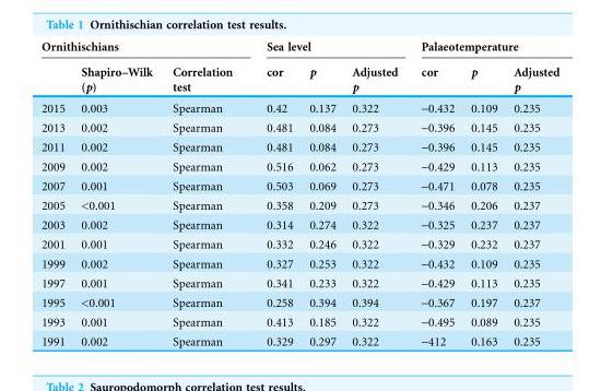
<table><thead><tr><td colspan="3">Ornithischians</td><td colspan="3">Sea level</td><td colspan="3">Palaeotemperature</td></tr><tr><td></td><td>Shapiro–Wilk (p)</td><td>Correlation test</td><td>cor</td><td>p</td><td>Adjusted p</td><td>cor</td><td>p</td><td>Adjusted p</td></tr></thead><tbody><tr><td>2015</td><td>0.003</td><td>Spearman</td><td>0.42</td><td>0.137</td><td>0.322</td><td>-0.432</td><td>0.109</td><td>0.235</td></tr><tr><td>2013</td><td>0.002</td><td>Spearman</td><td>0.481</td><td>0.084</td><td>0.273</td><td>-0.396</td><td>0.145</td><td>0.235</td></tr><tr><td>2011</td><td>0.002</td><td>Spearman</td><td>0.481</td><td>0.084</td><td>0.273</td><td>-0.396</td><td>0.145</td><td>0.235</td></tr><tr><td>2009</td><td>0.002</td><td>Spearman</td><td>0.516</td><td>0.062</td><td>0.273</td><td>-0.429</td><td>0.113</td><td>0.235</td></tr><tr><td>2007</td><td>0.001</td><td>Spearman</td><td>0.503</td><td>0.069</td><td>0.273</td><td>-0.471</td><td>0.078</td><td>0.235</td></tr><tr><td>2005</td><td>&lt;0.001</td><td>Spearman</td><td>0.358</td><td>0.209</td><td>0.273</td><td>-0.346</td><td>0.206</td><td>0.237</td></tr><tr><td>2003</td><td>0.002</td><td>Spearman</td><td>0.314</td><td>0.274</td><td>0.322</td><td>-0.325</td><td>0.237</td><td>0.237</td></tr><tr><td>2001</td><td>0.001</td><td>Spearman</td><td>0.332</td><td>0.246</td><td>0.322</td><td>-0.329</td><td>0.232</td><td>0.237</td></tr><tr><td>1999</td><td>0.002</td><td>Spearman</td><td>0.327</td><td>0.253</td><td>0.322</td><td>-0.432</td><td>0.109</td><td>0.235</td></tr><tr><td>1997</td><td>0.001</td><td>Spearman</td><td>0.341</td><td>0.233</td><td>0.322</td><td>-0.429</td><td>0.113</td><td>0.235</td></tr><tr><td>1995</td><td>&lt;0.001</td><td>Spearman</td><td>0.258</td><td>0.394</td><td>0.394</td><td>-0.367</td><td>0.197</td><td>0.237</td></tr><tr><td>1993</td><td>0.001</td><td>Spearman</td><td>0.413</td><td>0.185</td><td>0.322</td><td>-0.495</td><td>0.089</td><td>0.235</td></tr><tr><td>1991</td><td>0.002</td><td>Spearman</td><td>0.329</td><td>0.297</td><td>0.322</td><td>-412</td><td>0.163</td><td>0.235</td></tr></tbody></table>